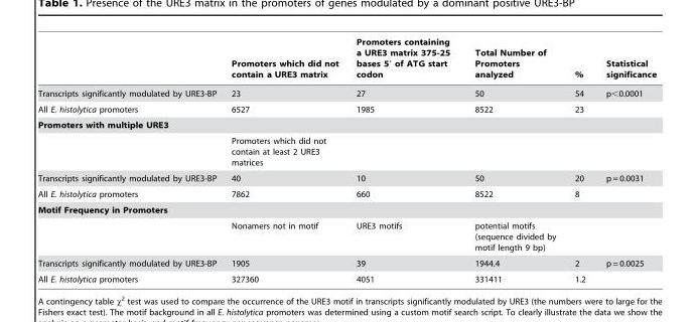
<table><thead><tr><td></td><td>Promoters which did not contain a URE3 matrix</td><td>Promoters containing a URE3 matrix 375-25 bases 5′ of ATG start codon</td><td>Total Number of Promoters analyzed</td><td>%</td><td>Statistical significance</td></tr></thead><tbody><tr><td>Transcripts significantly modulated by URE3-BP</td><td>23</td><td>27</td><td>50</td><td>54</td><td>p&lt;0.0001</td></tr><tr><td>All E. histolytica promoters</td><td>6527</td><td>1985</td><td>8522</td><td>23</td><td></td></tr><tr><td colspan="6">Promoters with multiple URE3</td></tr><tr><td></td><td>Promoters which did not contain at least 2 URE3 matrices</td><td></td><td></td><td></td><td></td></tr><tr><td>Transcripts significantly modulated by URE3-BP</td><td>40</td><td>10</td><td>50</td><td>20</td><td>p = 0.0031</td></tr><tr><td>All E. histolytica promoters</td><td>7862</td><td>660</td><td>8522</td><td>8</td><td></td></tr><tr><td colspan="6">Motif Frequency in Promoters</td></tr><tr><td></td><td>Nonamers not in motif</td><td>URE3 motifs</td><td>potential motifs (sequence divided by motif length 9 bp)</td><td></td><td></td></tr><tr><td>Transcripts significantly modulated by URE3-BP</td><td>1905</td><td>39</td><td>1944.4</td><td>2</td><td>p = 0.0025</td></tr><tr><td>All E. histolytica promoters</td><td>327360</td><td>4051</td><td>331411</td><td>1.2</td><td></td></tr></tbody></table>